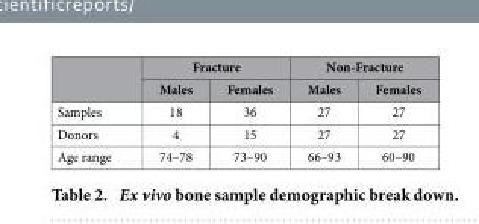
<table><thead><tr><td rowspan="2"></td><td colspan="2">Fracture</td><td colspan="2">Non-Fracture</td></tr><tr><td>Males</td><td>Females</td><td>Males</td><td>Females</td></tr></thead><tbody><tr><td>Samples</td><td>18</td><td>36</td><td>27</td><td>27</td></tr><tr><td>Donors</td><td>4</td><td>15</td><td>27</td><td>27</td></tr><tr><td>Age range</td><td>74–78</td><td>73–90</td><td>66–93</td><td>60–90</td></tr></tbody></table>